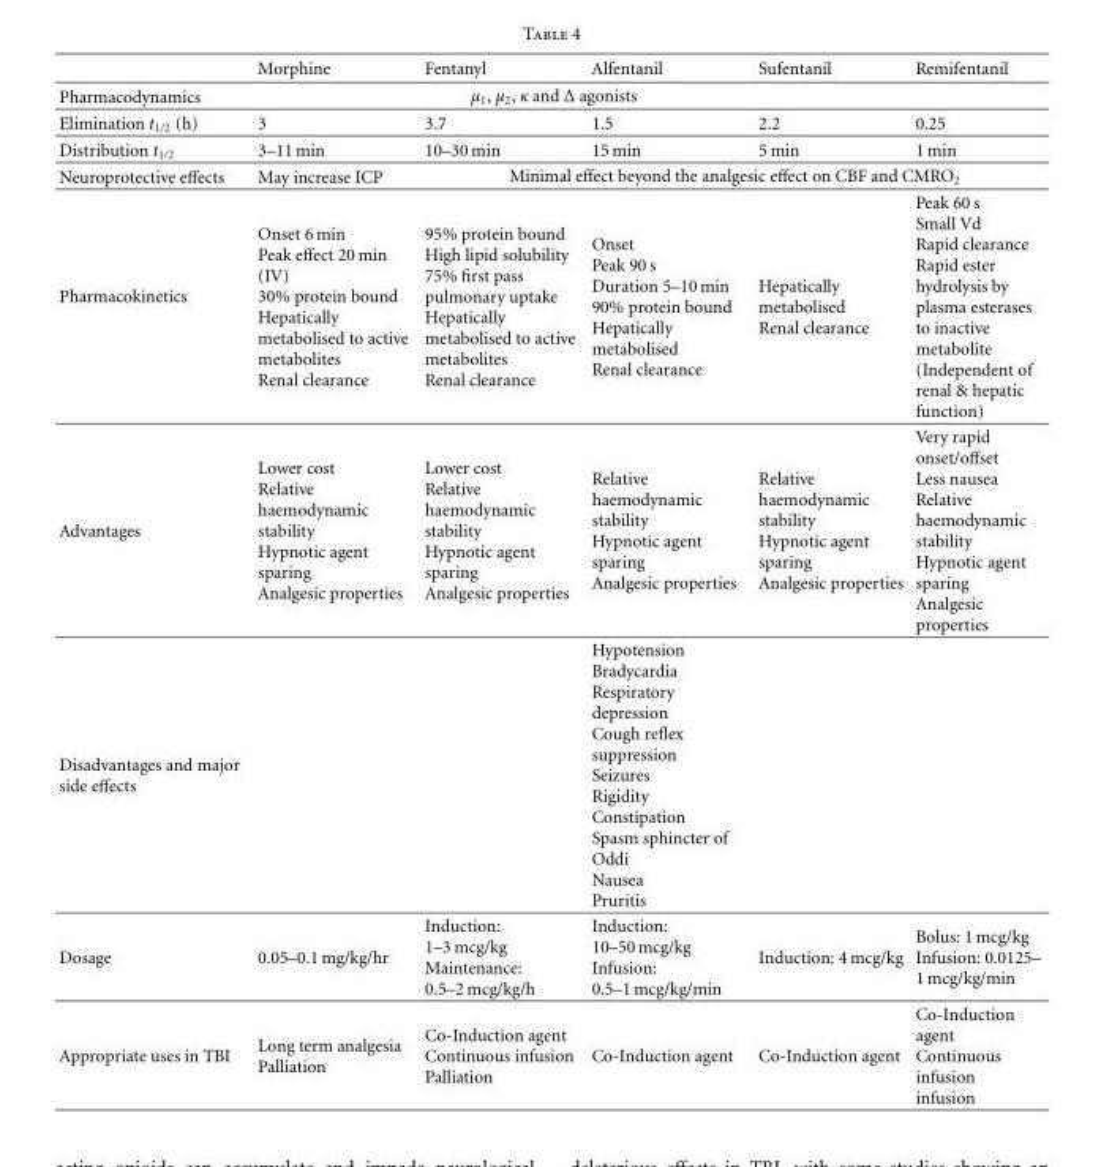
<table><thead><tr><td></td><td>Morphine</td><td>Fentanyl</td><td>Alfentanil</td><td>Sufentanil</td><td>Remifentanil</td></tr></thead><tbody><tr><td>Pharmacodynamics</td><td colspan="5">μ<sub>1</sub>, μ<sub>2</sub>, κ and Δ agonists</td></tr><tr><td>Elimination t<sub>1/2</sub> (h)</td><td>3</td><td>3.7</td><td>1.5</td><td>2.2</td><td>0.25</td></tr><tr><td>Distribution t<sub>1/2</sub></td><td>3–11 min</td><td>10–30 min</td><td>15 min</td><td>5 min</td><td>1 min</td></tr><tr><td>Neuroprotective effects</td><td>May increase ICP</td><td colspan="4">Minimal effect beyond the analgesic effect on CBF and CMRO<sub>2</sub></td></tr><tr><td>Pharmacokinetics</td><td>Onset 6 min Peak effect 20 min (IV) 30% protein bound Hepatically metabolised to active metabolites Renal clearance</td><td>95% protein bound High lipid solubility 75% first pass pulmonary uptake Hepatically metabolised to active metabolites Renal clearance</td><td>Onset Peak 90 s Duration 5–10 min 90% protein bound Hepatically metabolised Renal clearance</td><td>Hepatically metabolised Renal clearance</td><td>Peak 60 s Small Vd Rapid clearance Rapid ester hydrolysis by plasma esterases to inactive metabolite (Independent of renal &amp; hepatic function)</td></tr><tr><td>Advantages</td><td>Lower cost Relative haemodynamic stability Hypnotic agent sparing Analgesic properties</td><td>Lower cost Relative haemodynamic stability Hypnotic agent sparing Analgesic properties</td><td>Relative haemodynamic stability Hypnotic agent sparing Analgesic properties</td><td>Relative haemodynamic stability Hypnotic agent sparing Analgesic properties</td><td>Very rapid onset/offset Less nausea Relative haemodynamic stability Hypnotic agent sparing Analgesic properties</td></tr><tr><td>Disadvantages and major side effects</td><td></td><td></td><td>Hypotension Bradycardia Respiratory depression Cough reflex suppression Seizures Rigidity Constipation Spasm sphincter of Oddi Nausea Pruritis</td><td></td><td></td></tr><tr><td>Dosage</td><td>0.05–0.1 mg/kg/hr</td><td>Induction: 1–3 mcg/kg Maintenance: 0.5–2 mcg/kg/h</td><td>Induction: 10–50 mcg/kg Infusion: 0.5–1 mcg/kg/min</td><td>Induction: 4 mcg/kg</td><td>Bolus: 1 mcg/kg Infusion: 0.0125– 1 mcg/kg/min</td></tr><tr><td>Appropriate uses in TBI</td><td>Long term analgesia Palliation</td><td>Co-Induction agent Continuous infusion Palliation</td><td>Co-Induction agent</td><td>Co-Induction agent</td><td>Co-Induction agent Continuous infusion infusion</td></tr></tbody></table>